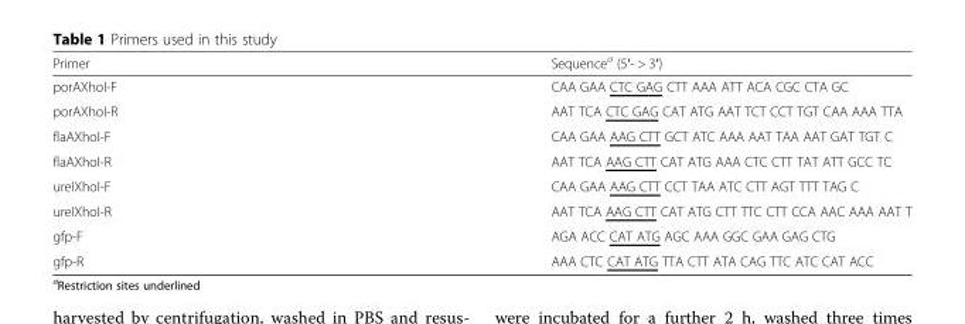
<table><thead><tr><td>Primer</td><td>Sequence<sup>a</sup> (5′- &gt; 3′)</td></tr></thead><tbody><tr><td>porAXhoI-F</td><td>CAA GAA CTC GAG CTT AAA ATT ACA CGC CTA GC</td></tr><tr><td>porAXhoI-R</td><td>AAT TCA CTC GAG CAT ATG AAT TCT CCT TGT CAA AAA TTA</td></tr><tr><td>flaAXhoI-F</td><td>CAA GAA AAG CTT GCT ATC AAA AAT TAA AAT GAT TGT C</td></tr><tr><td>flaAXhoI-R</td><td>AAT TCA AAG CTT CAT ATG AAA CTC CTT TAT ATT GCC TC</td></tr><tr><td>ureIXhoI-F</td><td>CAA GAA AAG CTT CCT TAA ATC CTT AGT TTT TAG C</td></tr><tr><td>ureIXhoI-R</td><td>AAT TCA AAG CTT CAT ATG CTT TTC CTT CCA AAC AAA AAT T</td></tr><tr><td>gfp-F</td><td>AGA ACC CAT ATG AGC AAA GGC GAA GAG CTG</td></tr><tr><td>gfp-R</td><td>AAA CTC CAT ATG TTA CTT ATA CAG TTC ATC CAT ACC</td></tr></tbody></table>